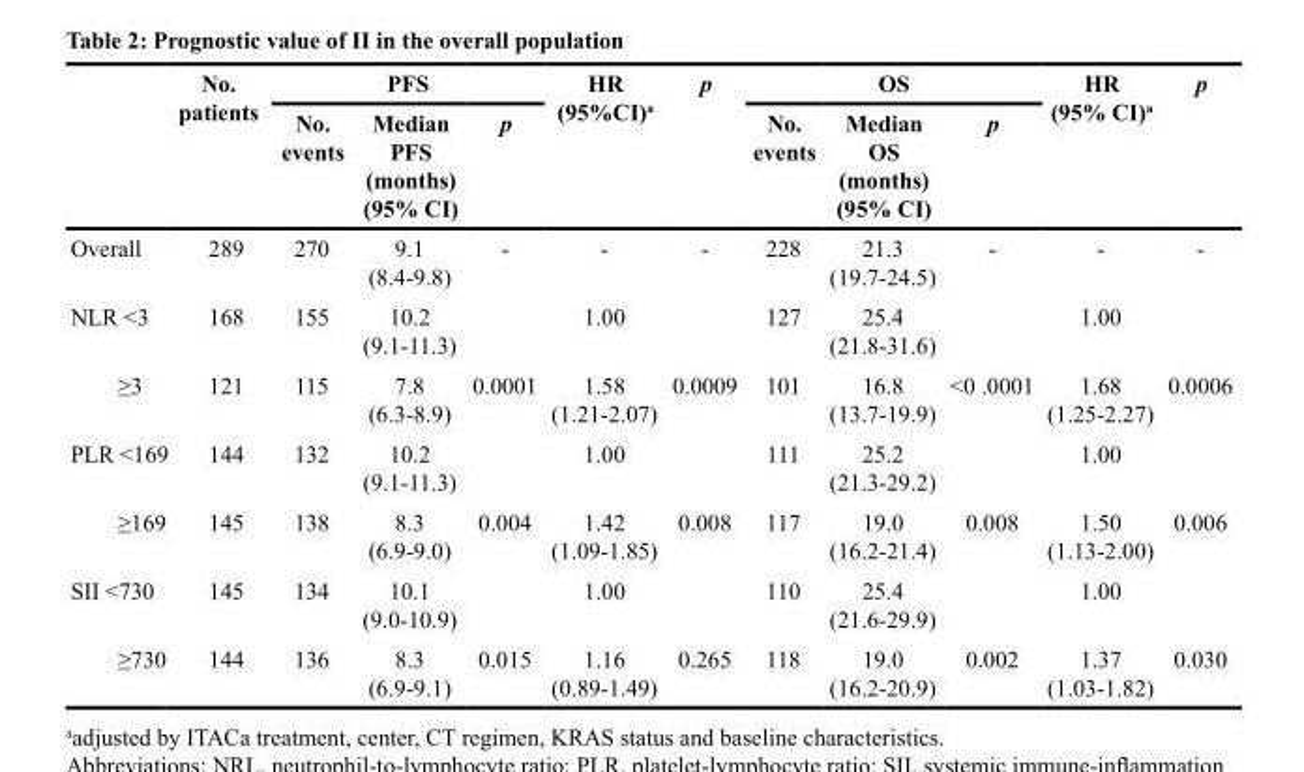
<table><thead><tr><td rowspan="2"></td><td rowspan="2">No. patients</td><td colspan="3">PFS</td><td rowspan="2">HR (95%CI)<sup>a</sup></td><td rowspan="2">p</td><td colspan="3">OS</td><td rowspan="2">HR (95% CI)<sup>a</sup></td><td rowspan="2">p</td></tr><tr><td>No. events</td><td>Median PFS (months) (95% CI)</td><td>p</td><td>No. events</td><td>Median OS (months) (95% CI)</td><td>p</td></tr></thead><tbody><tr><td>Overall</td><td>289</td><td>270</td><td>9.1 (8.4-9.8)</td><td>-</td><td>-</td><td>-</td><td>228</td><td>21.3 (19.7-24.5)</td><td>-</td><td>-</td><td>-</td></tr><tr><td>NLR &lt;3</td><td>168</td><td>155</td><td>10.2 (9.1-11.3)</td><td></td><td>1.00</td><td></td><td>127</td><td>25.4 (21.8-31.6)</td><td></td><td>1.00</td><td></td></tr><tr><td>≥3</td><td>121</td><td>115</td><td>7.8 (6.3-8.9)</td><td>0.0001</td><td>1.58 (1.21-2.07)</td><td>0.0009</td><td>101</td><td>16.8 (13.7-19.9)</td><td>&lt;0 .0001</td><td>1.68 (1.25-2.27)</td><td>0.0006</td></tr><tr><td>PLR &lt;169</td><td>144</td><td>132</td><td>10.2 (9.1-11.3)</td><td></td><td>1.00</td><td></td><td>111</td><td>25.2 (21.3-29.2)</td><td></td><td>1.00</td><td></td></tr><tr><td>≥169</td><td>145</td><td>138</td><td>8.3 (6.9-9.0)</td><td>0.004</td><td>1.42 (1.09-1.85)</td><td>0.008</td><td>117</td><td>19.0 (16.2-21.4)</td><td>0.008</td><td>1.50 (1.13-2.00)</td><td>0.006</td></tr><tr><td>SII &lt;730</td><td>145</td><td>134</td><td>10.1 (9.0-10.9)</td><td></td><td>1.00</td><td></td><td>110</td><td>25.4 (21.6-29.9)</td><td></td><td>1.00</td><td></td></tr><tr><td>≥730</td><td>144</td><td>136</td><td>8.3 (6.9-9.1)</td><td>0.015</td><td>1.16 (0.89-1.49)</td><td>0.265</td><td>118</td><td>19.0 (16.2-20.9)</td><td>0.002</td><td>1.37 (1.03-1.82)</td><td>0.030</td></tr></tbody></table>